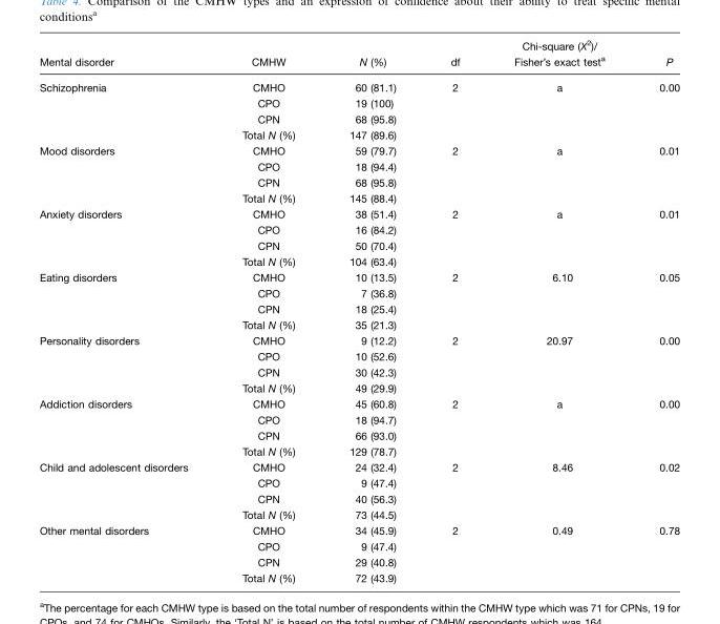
<table><thead><tr><td>Mental disorder</td><td>CMHW</td><td>N (%)</td><td>df</td><td>Chi-square (X<sup>2</sup>)/ Fisher’s exact test<sup>a</sup></td><td>P</td></tr></thead><tbody><tr><td rowspan="4">Schizophrenia</td><td>CMHO</td><td>60 (81.1)</td><td>2</td><td>a</td><td>0.00</td></tr><tr><td>CPO</td><td>19 (100)</td><td></td><td></td><td></td></tr><tr><td>CPN</td><td>68 (95.8)</td><td></td><td></td><td></td></tr><tr><td>Total N (%)</td><td>147 (89.6)</td><td></td><td></td><td></td></tr><tr><td rowspan="4">Mood disorders</td><td>CMHO</td><td>59 (79.7)</td><td>2</td><td>a</td><td>0.01</td></tr><tr><td>CPO</td><td>18 (94.4)</td><td></td><td></td><td></td></tr><tr><td>CPN</td><td>68 (95.8)</td><td></td><td></td><td></td></tr><tr><td>Total N (%)</td><td>145 (88.4)</td><td></td><td></td><td></td></tr><tr><td rowspan="4">Anxiety disorders</td><td>CMHO</td><td>38 (51.4)</td><td>2</td><td>a</td><td>0.01</td></tr><tr><td>CPO</td><td>16 (84.2)</td><td></td><td></td><td></td></tr><tr><td>CPN</td><td>50 (70.4)</td><td></td><td></td><td></td></tr><tr><td>Total N (%)</td><td>104 (63.4)</td><td></td><td></td><td></td></tr><tr><td rowspan="4">Eating disorders</td><td>CMHO</td><td>10 (13.5)</td><td>2</td><td>6.10</td><td>0.05</td></tr><tr><td>CPO</td><td>7 (36.8)</td><td></td><td></td><td></td></tr><tr><td>CPN</td><td>18 (25.4)</td><td></td><td></td><td></td></tr><tr><td>Total N (%)</td><td>35 (21.3)</td><td></td><td></td><td></td></tr><tr><td rowspan="4">Personality disorders</td><td>CMHO</td><td>9 (12.2)</td><td>2</td><td>20.97</td><td>0.00</td></tr><tr><td>CPO</td><td>10 (52.6)</td><td></td><td></td><td></td></tr><tr><td>CPN</td><td>30 (42.3)</td><td></td><td></td><td></td></tr><tr><td>Total N (%)</td><td>49 (29.9)</td><td></td><td></td><td></td></tr><tr><td rowspan="4">Addiction disorders</td><td>CMHO</td><td>45 (60.8)</td><td>2</td><td>a</td><td>0.00</td></tr><tr><td>CPO</td><td>18 (94.7)</td><td></td><td></td><td></td></tr><tr><td>CPN</td><td>66 (93.0)</td><td></td><td></td><td></td></tr><tr><td>Total N (%)</td><td>129 (78.7)</td><td></td><td></td><td></td></tr><tr><td rowspan="4">Child and adolescent disorders</td><td>CMHO</td><td>24 (32.4)</td><td>2</td><td>8.46</td><td>0.02</td></tr><tr><td>CPO</td><td>9 (47.4)</td><td></td><td></td><td></td></tr><tr><td>CPN</td><td>40 (56.3)</td><td></td><td></td><td></td></tr><tr><td>Total N (%)</td><td>73 (44.5)</td><td></td><td></td><td></td></tr><tr><td rowspan="4">Other mental disorders</td><td>CMHO</td><td>34 (45.9)</td><td>2</td><td>0.49</td><td>0.78</td></tr><tr><td>CPO</td><td>9 (47.4)</td><td></td><td></td><td></td></tr><tr><td>CPN</td><td>29 (40.8)</td><td></td><td></td><td></td></tr><tr><td>Total N (%)</td><td>72 (43.9)</td><td></td><td></td><td></td></tr></tbody></table>